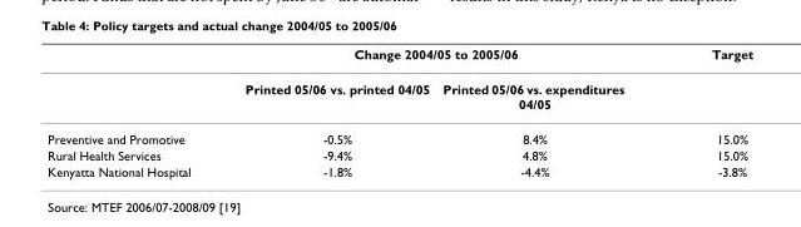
<table><thead><tr><td rowspan="2"></td><td colspan="2">Change 2004/05 to 2005/06</td><td rowspan="2">Target</td></tr><tr><td>Printed 05/06 vs. printed 04/05</td><td>Printed 05/06 vs. expenditures 04/05</td></tr></thead><tbody><tr><td>Preventive and Promotive</td><td>-0.5%</td><td>8.4%</td><td>15.0%</td></tr><tr><td>Rural Health Services</td><td>-9.4%</td><td>4.8%</td><td>15.0%</td></tr><tr><td>Kenyatta National Hospital</td><td>-1.8%</td><td>-4.4%</td><td>-3.8%</td></tr></tbody></table>